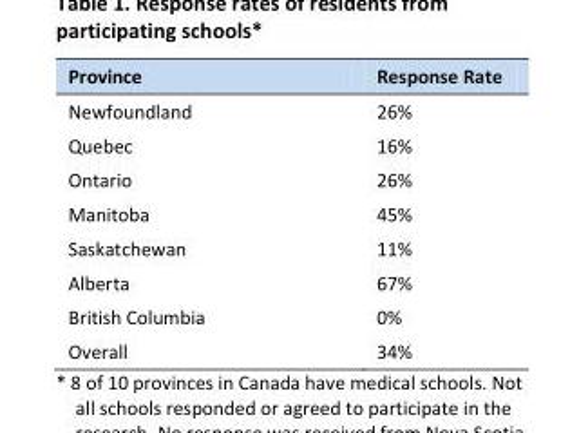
<table><thead><tr><td>Province</td><td>Response Rate</td></tr></thead><tbody><tr><td>Newfoundland</td><td>26%</td></tr><tr><td>Quebec</td><td>16%</td></tr><tr><td>Ontario</td><td>26%</td></tr><tr><td>Manitoba</td><td>45%</td></tr><tr><td>Saskatchewan</td><td>11%</td></tr><tr><td>Alberta</td><td>67%</td></tr><tr><td>British Columbia</td><td>0%</td></tr><tr><td>Overall</td><td>34%</td></tr></tbody></table>